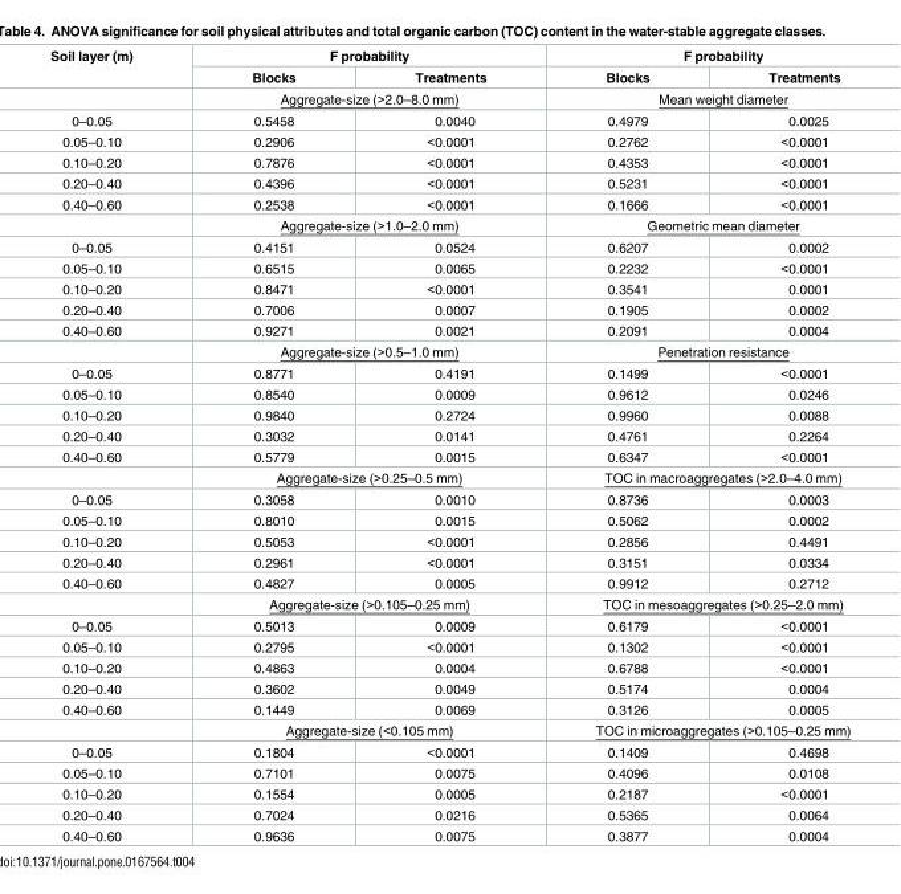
<table><thead><tr><td rowspan="2">Soil layer (m)</td><td colspan="2">F probability</td><td colspan="2">F probability</td></tr><tr><td>Blocks</td><td>Treatments</td><td>Blocks</td><td>Treatments</td></tr></thead><tbody><tr><td></td><td colspan="2">Aggregate-size (&gt;2.0–8.0 mm)</td><td colspan="2">Mean weight diameter</td></tr><tr><td>0–0.05</td><td>0.5458</td><td>0.0040</td><td>0.4979</td><td>0.0025</td></tr><tr><td>0.05–0.10</td><td>0.2906</td><td>&lt;0.0001</td><td>0.2762</td><td>&lt;0.0001</td></tr><tr><td>0.10–0.20</td><td>0.7876</td><td>&lt;0.0001</td><td>0.4353</td><td>&lt;0.0001</td></tr><tr><td>0.20–0.40</td><td>0.4396</td><td>&lt;0.0001</td><td>0.5231</td><td>&lt;0.0001</td></tr><tr><td rowspan="2">0.40–0.60</td><td>0.2538</td><td>&lt;0.0001</td><td>0.1666</td><td>&lt;0.0001</td></tr><tr><td colspan="2">Aggregate-size (&gt;1.0–2.0 mm)</td><td colspan="2">Geometric mean diameter</td></tr><tr><td>0–0.05</td><td>0.4151</td><td>0.0524</td><td>0.6207</td><td>0.0002</td></tr><tr><td>0.05–0.10</td><td>0.6515</td><td>0.0065</td><td>0.2232</td><td>&lt;0.0001</td></tr><tr><td>0.10–0.20</td><td>0.8471</td><td>&lt;0.0001</td><td>0.3541</td><td>0.0001</td></tr><tr><td>0.20–0.40</td><td>0.7006</td><td>0.0007</td><td>0.1905</td><td>0.0002</td></tr><tr><td rowspan="2">0.40–0.60</td><td>0.9271</td><td>0.0021</td><td>0.2091</td><td>0.0004</td></tr><tr><td colspan="2">Aggregate-size (&gt;0.5–1.0 mm)</td><td colspan="2">Penetration resistance</td></tr><tr><td>0–0.05</td><td>0.8771</td><td>0.4191</td><td>0.1499</td><td>&lt;0.0001</td></tr><tr><td>0.05–0.10</td><td>0.8540</td><td>0.0009</td><td>0.9612</td><td>0.0246</td></tr><tr><td>0.10–0.20</td><td>0.9840</td><td>0.2724</td><td>0.9960</td><td>0.0088</td></tr><tr><td>0.20–0.40</td><td>0.3032</td><td>0.0141</td><td>0.4761</td><td>0.2264</td></tr><tr><td rowspan="2">0.40–0.60</td><td>0.5779</td><td>0.0015</td><td>0.6347</td><td>&lt;0.0001</td></tr><tr><td colspan="2">Aggregate-size (&gt;0.25–0.5 mm)</td><td colspan="2">TOC in macroaggregates (&gt;2.0–4.0 mm)</td></tr><tr><td>0–0.05</td><td>0.3058</td><td>0.0010</td><td>0.8736</td><td>0.0003</td></tr><tr><td>0.05–0.10</td><td>0.8010</td><td>0.0015</td><td>0.5062</td><td>0.0002</td></tr><tr><td>0.10–0.20</td><td>0.5053</td><td>&lt;0.0001</td><td>0.2856</td><td>0.4491</td></tr><tr><td>0.20–0.40</td><td>0.2961</td><td>&lt;0.0001</td><td>0.3151</td><td>0.0334</td></tr><tr><td rowspan="2">0.40–0.60</td><td>0.4827</td><td>0.0005</td><td>0.9912</td><td>0.2712</td></tr><tr><td colspan="2">Aggregate-size (&gt;0.105–0.25 mm)</td><td colspan="2">TOC in mesoaggregates (&gt;0.25–2.0 mm)</td></tr><tr><td>0–0.05</td><td>0.5013</td><td>0.0009</td><td>0.6179</td><td>&lt;0.0001</td></tr><tr><td>0.05–0.10</td><td>0.2795</td><td>&lt;0.0001</td><td>0.1302</td><td>&lt;0.0001</td></tr><tr><td>0.10–0.20</td><td>0.4863</td><td>0.0004</td><td>0.6788</td><td>&lt;0.0001</td></tr><tr><td>0.20–0.40</td><td>0.3602</td><td>0.0049</td><td>0.5174</td><td>0.0004</td></tr><tr><td rowspan="2">0.40–0.60</td><td>0.1449</td><td>0.0069</td><td>0.3126</td><td>0.0005</td></tr><tr><td colspan="2">Aggregate-size (&lt;0.105 mm)</td><td colspan="2">TOC in microaggregates (&gt;0.105–0.25 mm)</td></tr><tr><td>0–0.05</td><td>0.1804</td><td>&lt;0.0001</td><td>0.1409</td><td>0.4698</td></tr><tr><td>0.05–0.10</td><td>0.7101</td><td>0.0075</td><td>0.4096</td><td>0.0108</td></tr><tr><td>0.10–0.20</td><td>0.1554</td><td>0.0005</td><td>0.2187</td><td>&lt;0.0001</td></tr><tr><td>0.20–0.40</td><td>0.7024</td><td>0.0216</td><td>0.5365</td><td>0.0064</td></tr><tr><td>0.40–0.60</td><td>0.9636</td><td>0.0075</td><td>0.3877</td><td>0.0004</td></tr></tbody></table>